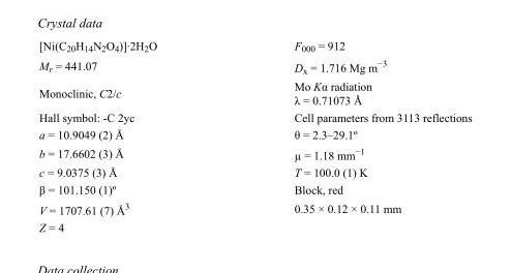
<table><tbody><tr><td>[Ni(C<sub>20</sub>H<sub>14</sub>N<sub>2</sub>O<sub>4</sub>)]·2H<sub>2</sub>O</td><td>F<sub>000</sub> = 912</td></tr><tr><td>M<sub>r</sub> = 441.07</td><td>D<sub>x</sub> = 1.716 Mg m<sup>−3</sup></td></tr><tr><td>Monoclinic, C2/c</td><td>Mo Kα radiation λ = 0.71073 Å</td></tr><tr><td>Hall symbol: -C 2yc</td><td>Cell parameters from 3113 reflections</td></tr><tr><td>a = 10.9049 (2) Å</td><td>θ = 2.3–29.1º</td></tr><tr><td>b = 17.6602 (3) Å</td><td>µ = 1.18 mm<sup>−1</sup></td></tr><tr><td>c = 9.0375 (3) Å</td><td>T = 100.0 (1) K</td></tr><tr><td>β = 101.150 (1)º</td><td>Block, red</td></tr><tr><td>V = 1707.61 (7) Å<sup>3</sup></td><td>0.35 × 0.12 × 0.11 mm</td></tr><tr><td>Z = 4</td><td></td></tr></tbody></table>